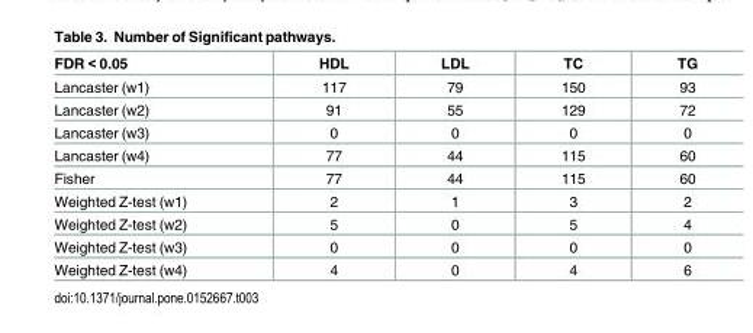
<table><thead><tr><td>FDR &lt; 0.05</td><td>HDL</td><td>LDL</td><td>TC</td><td>TG</td></tr></thead><tbody><tr><td>Lancaster (w1)</td><td>117</td><td>79</td><td>150</td><td>93</td></tr><tr><td>Lancaster (w2)</td><td>91</td><td>55</td><td>129</td><td>72</td></tr><tr><td>Lancaster (w3)</td><td>0</td><td>0</td><td>0</td><td>0</td></tr><tr><td>Lancaster (w4)</td><td>77</td><td>44</td><td>115</td><td>60</td></tr><tr><td>Fisher</td><td>77</td><td>44</td><td>115</td><td>60</td></tr><tr><td>Weighted Z-test (w1)</td><td>2</td><td>1</td><td>3</td><td>2</td></tr><tr><td>Weighted Z-test (w2)</td><td>5</td><td>0</td><td>5</td><td>4</td></tr><tr><td>Weighted Z-test (w3)</td><td>0</td><td>0</td><td>0</td><td>0</td></tr><tr><td>Weighted Z-test (w4)</td><td>4</td><td>0</td><td>4</td><td>6</td></tr></tbody></table>